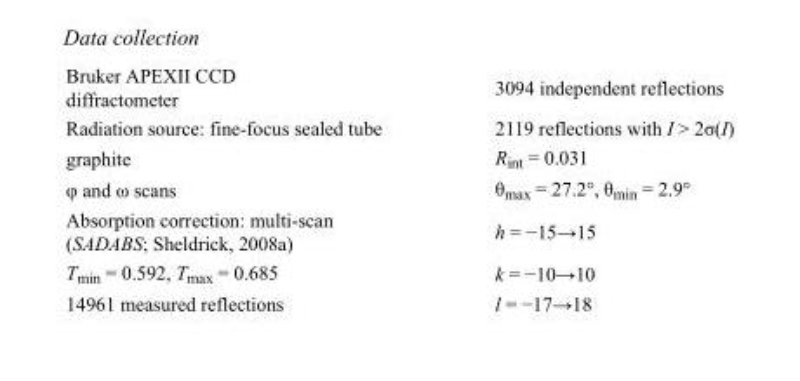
<table><tbody><tr><td>Bruker APEXII CCD diffractometer</td><td>3094 independent reflections</td></tr><tr><td>Radiation source: fine-focus sealed tube</td><td>2119 reflections with I &gt; 2σ(I)</td></tr><tr><td>graphite</td><td>R<sub>int</sub> = 0.031</td></tr><tr><td>φ and ω scans</td><td>θ<sub>max</sub> = 27.2°, θ<sub>min</sub> = 2.9°</td></tr><tr><td>Absorption correction: multi-scan (SADABS; Sheldrick, 2008a)</td><td>h = −15→15</td></tr><tr><td>T<sub>min</sub> = 0.592, T<sub>max</sub> = 0.685</td><td>k = −10→10</td></tr><tr><td>14961 measured reflections</td><td>l = −17→18</td></tr></tbody></table>